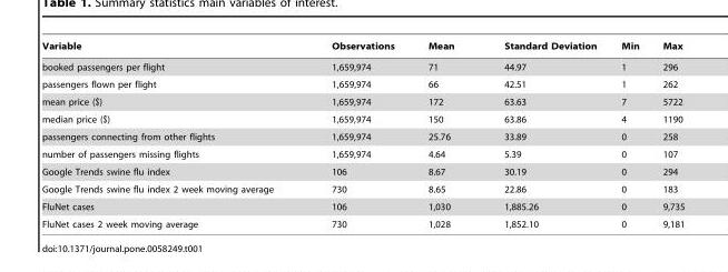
<table><thead><tr><td>Variable</td><td>Observations</td><td>Mean</td><td>Standard Deviation</td><td>Min</td><td>Max</td></tr></thead><tbody><tr><td>booked passengers per flight</td><td>1,659,974</td><td>71</td><td>44.97</td><td>1</td><td>296</td></tr><tr><td>passengers flown per flight</td><td>1,659,974</td><td>66</td><td>42.51</td><td>1</td><td>262</td></tr><tr><td>mean price ($)</td><td>1,659,974</td><td>172</td><td>63.63</td><td>7</td><td>5722</td></tr><tr><td>median price ($)</td><td>1,659,974</td><td>150</td><td>63.86</td><td>4</td><td>1190</td></tr><tr><td>passengers connecting from other flights</td><td>1,659,974</td><td>25.76</td><td>33.89</td><td>0</td><td>258</td></tr><tr><td>number of passengers missing flights</td><td>1,659,974</td><td>4.64</td><td>5.39</td><td>0</td><td>107</td></tr><tr><td>Google Trends swine flu index</td><td>106</td><td>8.67</td><td>30.19</td><td>0</td><td>294</td></tr><tr><td>Google Trends swine flu index 2 week moving average</td><td>730</td><td>8.65</td><td>22.86</td><td>0</td><td>183</td></tr><tr><td>FluNet cases</td><td>106</td><td>1,030</td><td>1,885.26</td><td>0</td><td>9,735</td></tr><tr><td>FluNet cases 2 week moving average</td><td>730</td><td>1,028</td><td>1,852.10</td><td>0</td><td>9,181</td></tr></tbody></table>